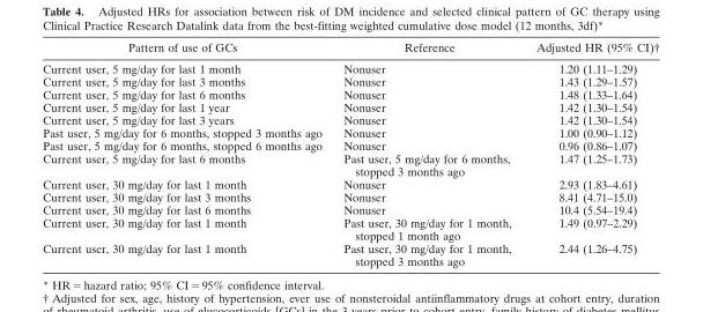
<table><thead><tr><td>Pattern of use of GCs</td><td>Reference</td><td>Adjusted HR (95% CI)†</td></tr></thead><tbody><tr><td>Current user, 5 mg/day for last 1 month</td><td>Nonuser</td><td>1.20 (1.11–1.29)</td></tr><tr><td>Current user, 5 mg/day for last 3 months</td><td>Nonuser</td><td>1.43 (1.29–1.57)</td></tr><tr><td>Current user, 5 mg/day for last 6 months</td><td>Nonuser</td><td>1.48 (1.33–1.64)</td></tr><tr><td>Current user, 5 mg/day for last 1 year</td><td>Nonuser</td><td>1.42 (1.30–1.54)</td></tr><tr><td>Current user, 5 mg/day for last 3 years</td><td>Nonuser</td><td>1.42 (1.30–1.54)</td></tr><tr><td>Past user, 5 mg/day for 6 months, stopped 3 months ago</td><td>Nonuser</td><td>1.00 (0.90–1.12)</td></tr><tr><td>Past user, 5 mg/day for 6 months, stopped 6 months ago</td><td>Nonuser</td><td>0.96 (0.86–1.07)</td></tr><tr><td>Current user, 5 mg/day for last 6 months</td><td>Past user, 5 mg/day for 6 months, stopped 3 months ago</td><td>1.47 (1.25–1.73)</td></tr><tr><td>Current user, 30 mg/day for last 1 month</td><td>Nonuser</td><td>2.93 (1.83–4.61)</td></tr><tr><td>Current user, 30 mg/day for last 3 months</td><td>Nonuser</td><td>8.41 (4.71–15.0)</td></tr><tr><td>Current user, 30 mg/day for last 6 months</td><td>Nonuser</td><td>10.4 (5.54–19.4)</td></tr><tr><td>Current user, 30 mg/day for last 1 month</td><td>Past user, 30 mg/day for 1 month, stopped 1 month ago</td><td>1.49 (0.97–2.29)</td></tr><tr><td>Current user, 30 mg/day for last 1 month</td><td>Past user, 30 mg/day for 1 month, stopped 3 months ago</td><td>2.44 (1.26–4.75)</td></tr></tbody></table>